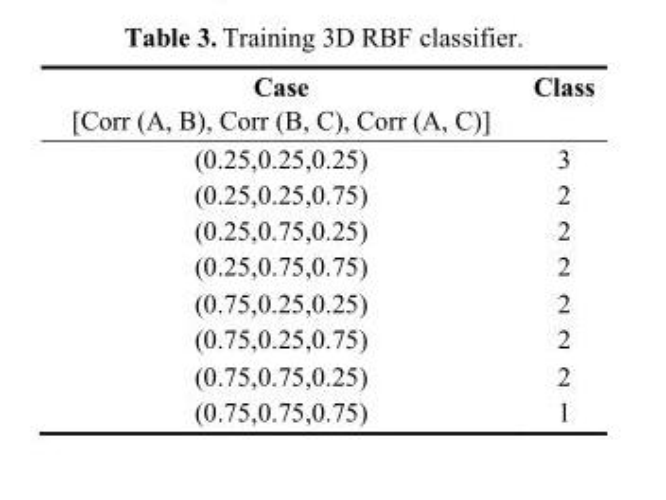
<table><thead><tr><td>Case [Corr (A, B), Corr (B, C), Corr (A, C)]</td><td>Class</td></tr></thead><tbody><tr><td>(0.25,0.25,0.25)</td><td>3</td></tr><tr><td>(0.25,0.25,0.75)</td><td>2</td></tr><tr><td>(0.25,0.75,0.25)</td><td>2</td></tr><tr><td>(0.25,0.75,0.75)</td><td>2</td></tr><tr><td>(0.75,0.25,0.25)</td><td>2</td></tr><tr><td>(0.75,0.25,0.75)</td><td>2</td></tr><tr><td>(0.75,0.75,0.25)</td><td>2</td></tr><tr><td>(0.75,0.75,0.75)</td><td>1</td></tr></tbody></table>